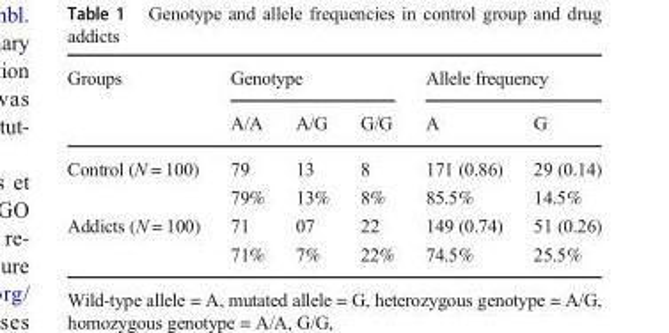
<table><thead><tr><td rowspan="2">Groups</td><td colspan="3">Genotype</td><td colspan="2">Allele frequency</td></tr><tr><td>A/A</td><td>A/G</td><td>G/G</td><td>A</td><td>G</td></tr></thead><tbody><tr><td rowspan="2">Control (N = 100)</td><td>79</td><td>13</td><td>8</td><td>171 (0.86)</td><td>29 (0.14)</td></tr><tr><td>79%</td><td>13%</td><td>8%</td><td>85.5%</td><td>14.5%</td></tr><tr><td rowspan="2">Addicts (N = 100)</td><td>71</td><td>07</td><td>22</td><td>149 (0.74)</td><td>51 (0.26)</td></tr><tr><td>71%</td><td>7%</td><td>22%</td><td>74.5%</td><td>25.5%</td></tr></tbody></table>